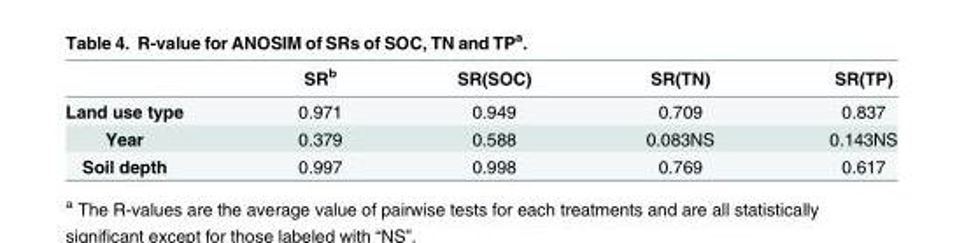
<table><thead><tr><td></td><td>SR<sup>b</sup></td><td>SR(SOC)</td><td>SR(TN)</td><td>SR(TP)</td></tr></thead><tbody><tr><td>Land use type</td><td>0.971</td><td>0.949</td><td>0.709</td><td>0.837</td></tr><tr><td>Year</td><td>0.379</td><td>0.588</td><td>0.083NS</td><td>0.143NS</td></tr><tr><td>Soil depth</td><td>0.997</td><td>0.998</td><td>0.769</td><td>0.617</td></tr></tbody></table>